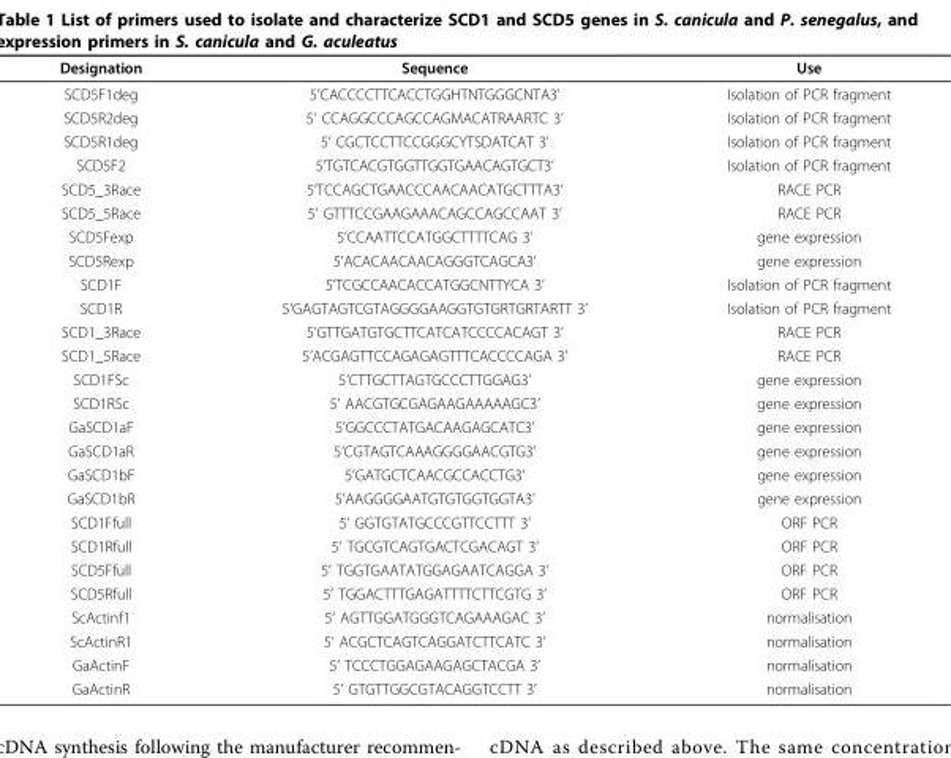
<table><thead><tr><td>Designation</td><td>Sequence</td><td>Use</td></tr></thead><tbody><tr><td>SCD5F1deg</td><td>5’CACCCCTTCACCTGGHTNTGGGCNTA3’</td><td>Isolation of PCR fragment</td></tr><tr><td>SCD5R2deg</td><td>5’ CCAGGCCCAGCCAGMACATRAARTC 3’</td><td>Isolation of PCR fragment</td></tr><tr><td>SCD5R1deg</td><td>5’ CGCTCCTTCCGGGCYTSDATCAT 3’</td><td>Isolation of PCR fragment</td></tr><tr><td>SCD5F2</td><td>5’TGTCACGTGGTTGGTGAACAGTGCT3’</td><td>Isolation of PCR fragment</td></tr><tr><td>SCD5_3Race</td><td>5’TCCAGCTGAACCCAACAACATGCTTTA3’</td><td>RACE PCR</td></tr><tr><td>SCD5_5Race</td><td>5’ GTTTCCGAAGAAACAGCCAGCCAAT 3’</td><td>RACE PCR</td></tr><tr><td>SCD5Fexp</td><td>5’CCAATTCCATGGCTTTTCAG 3’</td><td>gene expression</td></tr><tr><td>SCD5Rexp</td><td>5’ACACAACAACAGGGTCAGCA3’</td><td>gene expression</td></tr><tr><td>SCD1F</td><td>5’TCGCCAACACCATGGCNTTYCA 3’</td><td>Isolation of PCR fragment</td></tr><tr><td>SCD1R</td><td>5’GAGTAGTCGTAGGGGAAGGTGTGRTGRTARTT 3’</td><td>Isolation of PCR fragment</td></tr><tr><td>SCD1_3Race</td><td>5’GTTGATGTGCTTCATCATCCCCACAGT 3’</td><td>RACE PCR</td></tr><tr><td>SCD1_5Race</td><td>5’ACGAGTTCCAGAGAGTTTCACCCCAGA 3’</td><td>RACE PCR</td></tr><tr><td>SCD1FSc</td><td>5’CTTGCTTAGTGCCCTTGGAG3’</td><td>gene expression</td></tr><tr><td>SCD1RSc</td><td>5’ AACGTGCGAGAAGAAAAAGC3’</td><td>gene expression</td></tr><tr><td>GaSCD1aF</td><td>5’GGCCCTATGACAAGAGCATC3’</td><td>gene expression</td></tr><tr><td>GaSCD1aR</td><td>5’CGTAGTCAAAGGGGAACGTG3’</td><td>gene expression</td></tr><tr><td>GaSCD1bF</td><td>5’GATGCTCAACGCCACCTG3’</td><td>gene expression</td></tr><tr><td>GaSCD1bR</td><td>5’AAGGGGAATGTGTGGTGGTA3’</td><td>gene expression</td></tr><tr><td>SCD1Ffull</td><td>5’ GGTGTATGCCCGTTCCTTT 3’</td><td>ORF PCR</td></tr><tr><td>SCD1Rfull</td><td>5’ TGCGTCAGTGACTCGACAGT 3’</td><td>ORF PCR</td></tr><tr><td>SCD5Ffull</td><td>5’ TGGTGAATATGGAGAATCAGGA 3’</td><td>ORF PCR</td></tr><tr><td>SCD5Rfull</td><td>5’ TGGACTTTGAGATTTTCTTCGTG 3’</td><td>ORF PCR</td></tr><tr><td>ScActinf1</td><td>5’ AGTTGGATGGGTCAGAAAGAC 3’</td><td>normalisation</td></tr><tr><td>ScActinR1</td><td>5’ ACGCTCAGTCAGGATCTTCATC 3’</td><td>normalisation</td></tr><tr><td>GaActinF</td><td>5’ TCCCTGGAGAAGAGCTACGA 3’</td><td>normalisation</td></tr><tr><td>GaActinR</td><td>5’ GTGTTGGCGTACAGGTCCTT 3’</td><td>normalisation</td></tr></tbody></table>